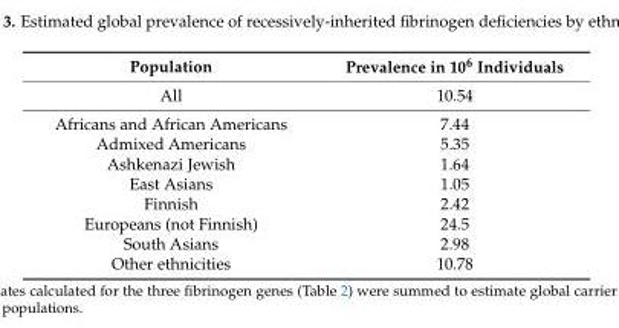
<table><thead><tr><td>Population</td><td>Prevalence in 10<sup>6</sup> Individuals</td></tr></thead><tbody><tr><td>All</td><td>10.54</td></tr><tr><td>Africans and African Americans</td><td>7.44</td></tr><tr><td>Admixed Americans</td><td>5.35</td></tr><tr><td>Ashkenazi Jewish</td><td>1.64</td></tr><tr><td>East Asians</td><td>1.05</td></tr><tr><td>Finnish</td><td>2.42</td></tr><tr><td>Europeans (not Finnish)</td><td>24.5</td></tr><tr><td>South Asians</td><td>2.98</td></tr><tr><td>Other ethnicities</td><td>10.78</td></tr></tbody></table>